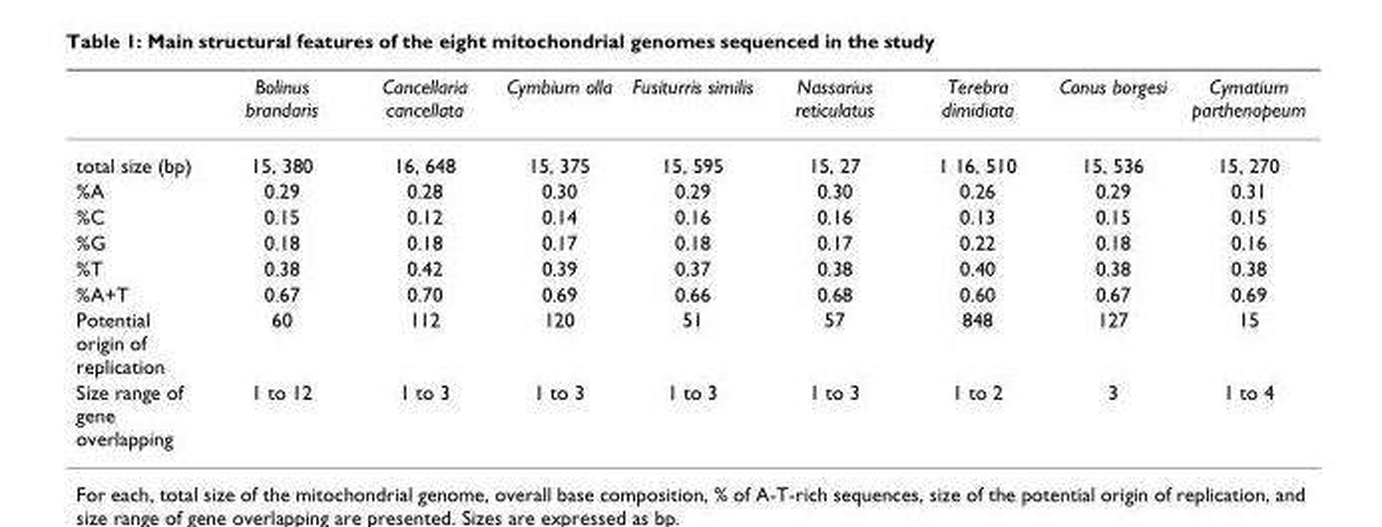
<table><thead><tr><td></td><td>Bolinus brandaris</td><td>Cancellaria cancellata</td><td>Cymbium olla</td><td>Fusiturris similis</td><td>Nassarius reticulatus</td><td>Terebra dimidiata</td><td>Conus borgesi</td><td>Cymatium parthenopeum</td></tr></thead><tbody><tr><td>total size (bp)</td><td>15, 380</td><td>16, 648</td><td>15, 375</td><td>15, 595</td><td>15, 27</td><td>1 16, 510</td><td>15, 536</td><td>15, 270</td></tr><tr><td>%A</td><td>0.29</td><td>0.28</td><td>0.30</td><td>0.29</td><td>0.30</td><td>0.26</td><td>0.29</td><td>0.31</td></tr><tr><td>%C</td><td>0.15</td><td>0.12</td><td>0.14</td><td>0.16</td><td>0.16</td><td>0.13</td><td>0.15</td><td>0.15</td></tr><tr><td>%G</td><td>0.18</td><td>0.18</td><td>0.17</td><td>0.18</td><td>0.17</td><td>0.22</td><td>0.18</td><td>0.16</td></tr><tr><td>%T</td><td>0.38</td><td>0.42</td><td>0.39</td><td>0.37</td><td>0.38</td><td>0.40</td><td>0.38</td><td>0.38</td></tr><tr><td>%A+T</td><td>0.67</td><td>0.70</td><td>0.69</td><td>0.66</td><td>0.68</td><td>0.60</td><td>0.67</td><td>0.69</td></tr><tr><td>Potential origin of replication</td><td>60</td><td>112</td><td>120</td><td>51</td><td>57</td><td>848</td><td>127</td><td>15</td></tr><tr><td>Size range of gene overlapping</td><td>1 to 12</td><td>1 to 3</td><td>1 to 3</td><td>1 to 3</td><td>1 to 3</td><td>1 to 2</td><td>3</td><td>1 to 4</td></tr></tbody></table>